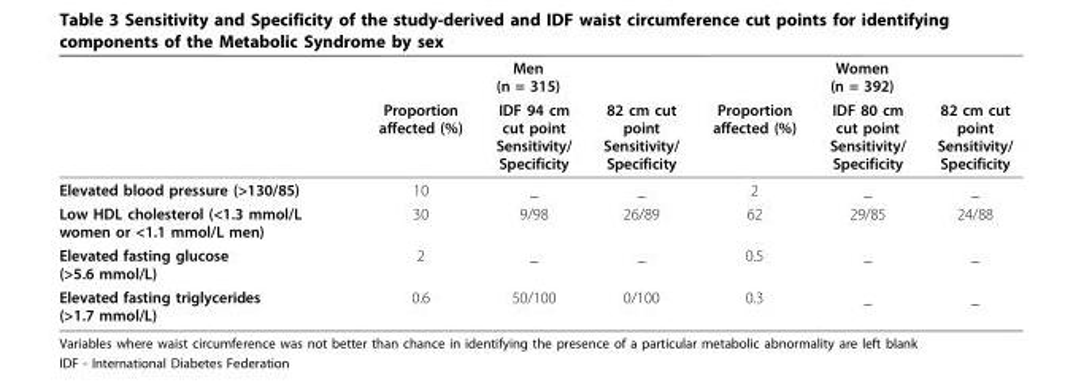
<table><thead><tr><td rowspan="2"></td><td colspan="3">Men (n = 315)</td><td colspan="3">Women (n = 392)</td></tr><tr><td>Proportion affected (%)</td><td>IDF 94 cm cut point Sensitivity/ Specificity</td><td>82 cm cut point Sensitivity/ Specificity</td><td>Proportion affected (%)</td><td>IDF 80 cm cut point Sensitivity/ Specificity</td><td>82 cm cut point Sensitivity/ Specificity</td></tr></thead><tbody><tr><td>Elevated blood pressure (&gt;130/85)</td><td>10</td><td>_</td><td>_</td><td>2</td><td>_</td><td>_</td></tr><tr><td>Low HDL cholesterol (&lt;1.3 mmol/L women or &lt;1.1 mmol/L men)</td><td>30</td><td>9/98</td><td>26/89</td><td>62</td><td>29/85</td><td>24/88</td></tr><tr><td>Elevated fasting glucose (&gt;5.6 mmol/L)</td><td>2</td><td>_</td><td>_</td><td>0.5</td><td>_</td><td>_</td></tr><tr><td>Elevated fasting triglycerides (&gt;1.7 mmol/L)</td><td>0.6</td><td>50/100</td><td>0/100</td><td>0.3</td><td>_</td><td>_</td></tr></tbody></table>